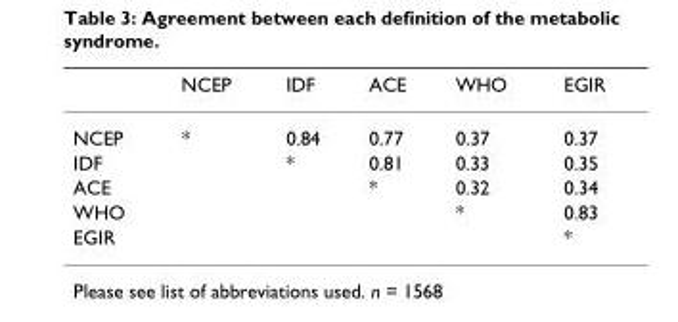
<table><thead><tr><td></td><td>NCEP</td><td>IDF</td><td>ACE</td><td>WHO</td><td>EGIR</td></tr></thead><tbody><tr><td>NCEP</td><td>*</td><td>0.84</td><td>0.77</td><td>0.37</td><td>0.37</td></tr><tr><td>IDF</td><td></td><td>*</td><td>0.81</td><td>0.33</td><td>0.35</td></tr><tr><td>ACE</td><td></td><td></td><td>*</td><td>0.32</td><td>0.34</td></tr><tr><td>WHO</td><td></td><td></td><td></td><td>*</td><td>0.83</td></tr><tr><td>EGIR</td><td></td><td></td><td></td><td></td><td>*</td></tr></tbody></table>